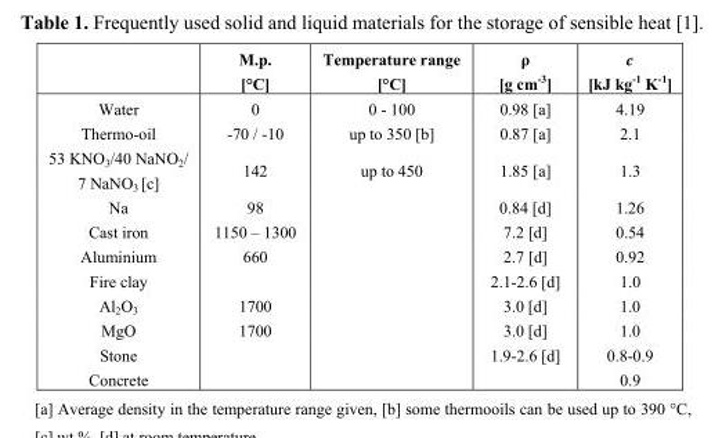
<table><thead><tr><td></td><td>M.p. [°C]</td><td>Temperature range [°C]</td><td>ρ [g cm<sup>-3</sup>]</td><td>c [kJ kg<sup>-1</sup> K<sup>-1</sup>]</td></tr></thead><tbody><tr><td>Water</td><td>0</td><td>0 - 100</td><td>0.98 [a]</td><td>4.19</td></tr><tr><td>Thermo-oil</td><td>-70 / -10</td><td>up to 350 [b]</td><td>0.87 [a]</td><td>2.1</td></tr><tr><td>53 KNO<sub>3</sub>/40 NaNO<sub>2</sub>/ 7 NaNO<sub>3</sub> [c]</td><td>142</td><td>up to 450</td><td>1.85 [a]</td><td>1.3</td></tr><tr><td>Na</td><td>98</td><td></td><td>0.84 [d]</td><td>1.26</td></tr><tr><td>Cast iron</td><td>1150 – 1300</td><td></td><td>7.2 [d]</td><td>0.54</td></tr><tr><td>Aluminium</td><td>660</td><td></td><td>2.7 [d]</td><td>0.92</td></tr><tr><td>Fire clay</td><td></td><td></td><td>2.1-2.6 [d]</td><td>1.0</td></tr><tr><td>Al<sub>2</sub>O<sub>3</sub></td><td>1700</td><td></td><td>3.0 [d]</td><td>1.0</td></tr><tr><td>MgO</td><td>1700</td><td></td><td>3.0 [d]</td><td>1.0</td></tr><tr><td>Stone</td><td></td><td></td><td>1.9-2.6 [d]</td><td>0.8-0.9</td></tr><tr><td>Concrete</td><td></td><td></td><td></td><td>0.9</td></tr></tbody></table>